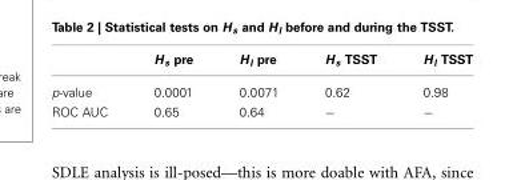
<table><thead><tr><td></td><td>H<sub>s</sub> pre</td><td>H<sub>l</sub> pre</td><td>H<sub>s</sub> TSST</td><td>H<sub>l</sub> TSST</td></tr></thead><tbody><tr><td>p-value</td><td>0.0001</td><td>0.0071</td><td>0.62</td><td>0.98</td></tr><tr><td>ROC AUC</td><td>0.65</td><td>0.64</td><td>−</td><td>−</td></tr></tbody></table>